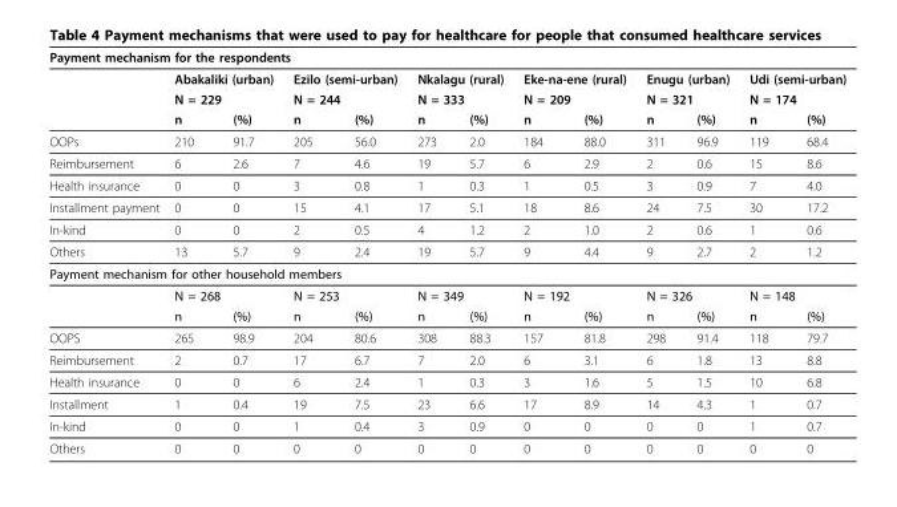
<table><thead><tr><td colspan="13">Payment mechanism for the respondents</td></tr><tr><td rowspan="3"></td><td rowspan="2" colspan="2">Abakaliki (urban) N = 229</td><td rowspan="2" colspan="2">Ezilo (semi-urban) N = 244</td><td rowspan="2" colspan="2">Nkalagu (rural) N = 333</td><td rowspan="2" colspan="2">Eke-na-ene (rural) N = 209</td><td rowspan="2" colspan="2">Enugu (urban) N = 321</td><td rowspan="2" colspan="2">Udi (semi-urban) N = 174</td></tr><tr></tr><tr><td>n</td><td>(%)</td><td>n</td><td>(%)</td><td>n</td><td>(%)</td><td>n</td><td>(%)</td><td>n</td><td>(%)</td><td>n</td><td>(%)</td></tr></thead><tbody><tr><td>OOPs</td><td>210</td><td>91.7</td><td>205</td><td>56.0</td><td>273</td><td>2.0</td><td>184</td><td>88.0</td><td>311</td><td>96.9</td><td>119</td><td>68.4</td></tr><tr><td>Reimbursement</td><td>6</td><td>2.6</td><td>7</td><td>4.6</td><td>19</td><td>5.7</td><td>6</td><td>2.9</td><td>2</td><td>0.6</td><td>15</td><td>8.6</td></tr><tr><td>Health insurance</td><td>0</td><td>0</td><td>3</td><td>0.8</td><td>1</td><td>0.3</td><td>1</td><td>0.5</td><td>3</td><td>0.9</td><td>7</td><td>4.0</td></tr><tr><td>Installment payment</td><td>0</td><td>0</td><td>15</td><td>4.1</td><td>17</td><td>5.1</td><td>18</td><td>8.6</td><td>24</td><td>7.5</td><td>30</td><td>17.2</td></tr><tr><td>In-kind</td><td>0</td><td>0</td><td>2</td><td>0.5</td><td>4</td><td>1.2</td><td>2</td><td>1.0</td><td>2</td><td>0.6</td><td>1</td><td>0.6</td></tr><tr><td>Others</td><td>13</td><td>5.7</td><td>9</td><td>2.4</td><td>19</td><td>5.7</td><td>9</td><td>4.4</td><td>9</td><td>2.7</td><td>2</td><td>1.2</td></tr><tr><td colspan="13">Payment mechanism for other household members</td></tr><tr><td></td><td colspan="2">N = 268</td><td colspan="2">N = 253</td><td colspan="2">N = 349</td><td colspan="2">N = 192</td><td colspan="2">N = 326</td><td colspan="2">N = 148</td></tr><tr><td></td><td>n</td><td>(%)</td><td>n</td><td>(%)</td><td>n</td><td>(%)</td><td>n</td><td>(%)</td><td>n</td><td>(%)</td><td>n</td><td>(%)</td></tr><tr><td>OOPS</td><td>265</td><td>98.9</td><td>204</td><td>80.6</td><td>308</td><td>88.3</td><td>157</td><td>81.8</td><td>298</td><td>91.4</td><td>118</td><td>79.7</td></tr><tr><td>Reimbursement</td><td>2</td><td>0.7</td><td>17</td><td>6.7</td><td>7</td><td>2.0</td><td>6</td><td>3.1</td><td>6</td><td>1.8</td><td>13</td><td>8.8</td></tr><tr><td>Health insurance</td><td>0</td><td>0</td><td>6</td><td>2.4</td><td>1</td><td>0.3</td><td>3</td><td>1.6</td><td>5</td><td>1.5</td><td>10</td><td>6.8</td></tr><tr><td>Installment</td><td>1</td><td>0.4</td><td>19</td><td>7.5</td><td>23</td><td>6.6</td><td>17</td><td>8.9</td><td>14</td><td>4.3</td><td>1</td><td>0.7</td></tr><tr><td>In-kind</td><td>0</td><td>0</td><td>1</td><td>0.4</td><td>3</td><td>0.9</td><td>0</td><td>0</td><td>0</td><td>0</td><td>1</td><td>0.7</td></tr><tr><td>Others</td><td>0</td><td>0</td><td>0</td><td>0</td><td>0</td><td>0</td><td>0</td><td>0</td><td>0</td><td>0</td><td>0</td><td>0</td></tr></tbody></table>